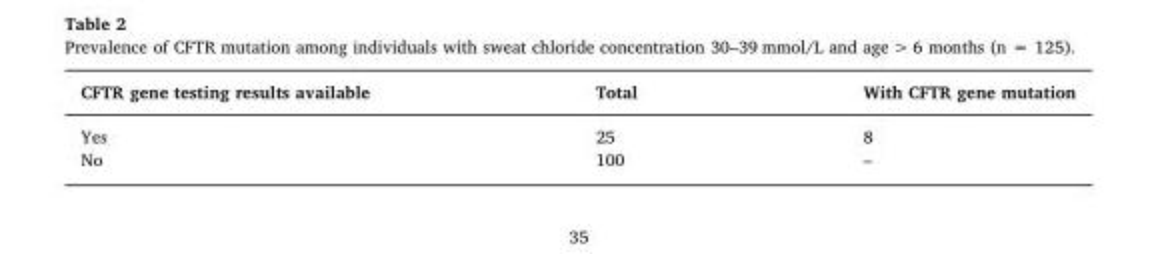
<table><thead><tr><td>CFTR gene testing results available</td><td>Total</td><td>With CFTR gene mutation</td></tr></thead><tbody><tr><td>Yes</td><td>25</td><td>8</td></tr><tr><td>No</td><td>100</td><td>–</td></tr></tbody></table>